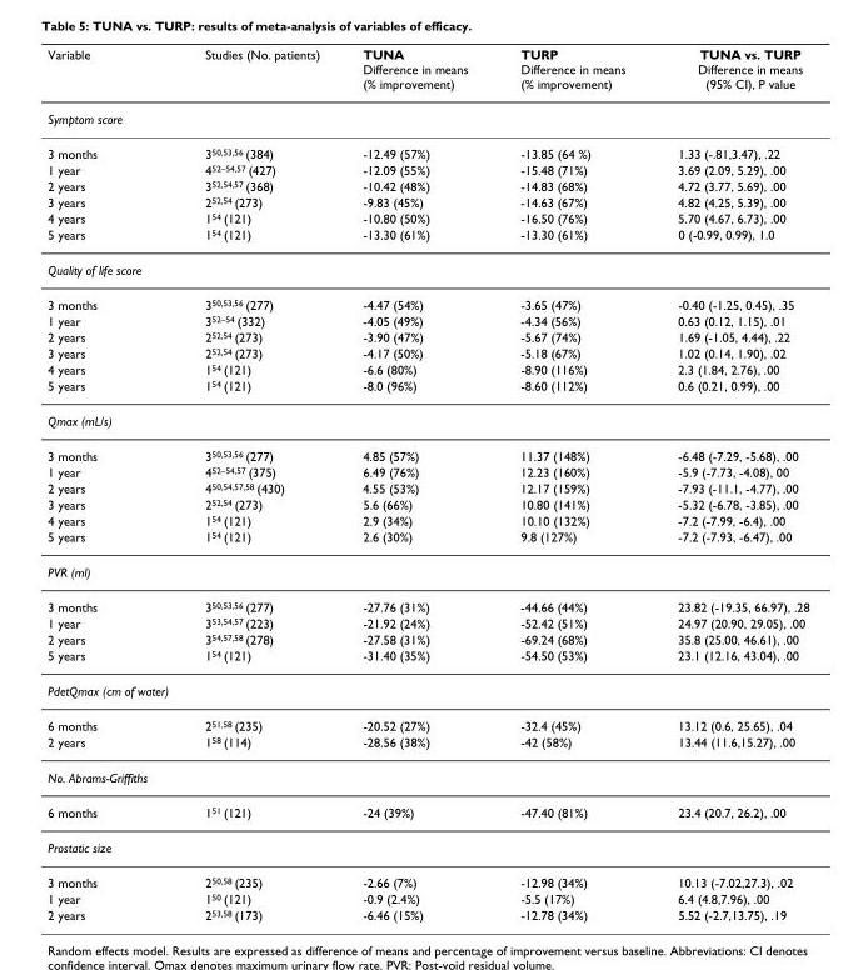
<table><thead><tr><td>Variable</td><td>Studies (No. patients)</td><td>TUNA Difference in means (% improvement)</td><td>TURP Difference in means (% improvement)</td><td>TUNA vs. TURP Difference in means (95% CI), P value</td></tr></thead><tbody><tr><td colspan="5">Symptom score</td></tr><tr><td>3 months</td><td>350,53,56 (384)</td><td>-12.49 (57%)</td><td>-13.85 (64 %)</td><td>1.33 (-.81,3.47), .22</td></tr><tr><td>1 year</td><td>452–54,57 (427)</td><td>-12.09 (55%)</td><td>-15.48 (71%)</td><td>3.69 (2.09, 5.29), .00</td></tr><tr><td>2 years</td><td>352,54,57 (368)</td><td>-10.42 (48%)</td><td>-14.83 (68%)</td><td>4.72 (3.77, 5.69), .00</td></tr><tr><td>3 years</td><td>252,54 (273)</td><td>-9.83 (45%)</td><td>-14.63 (67%)</td><td>4.82 (4.25, 5.39), .00</td></tr><tr><td>4 years</td><td>154 (121)</td><td>-10.80 (50%)</td><td>-16.50 (76%)</td><td>5.70 (4.67, 6.73), .00</td></tr><tr><td>5 years</td><td>154 (121)</td><td>-13.30 (61%)</td><td>-13.30 (61%)</td><td>0 (-0.99, 0.99), 1.0</td></tr><tr><td colspan="5">Quality of life score</td></tr><tr><td>3 months</td><td>350,53,56 (277)</td><td>-4.47 (54%)</td><td>-3.65 (47%)</td><td>-0.40 (-1.25, 0.45), .35</td></tr><tr><td>1 year</td><td>352–54 (332)</td><td>-4.05 (49%)</td><td>-4.34 (56%)</td><td>0.63 (0.12, 1.15), .01</td></tr><tr><td>2 years</td><td>252,54 (273)</td><td>-3.90 (47%)</td><td>-5.67 (74%)</td><td>1.69 (-1.05, 4.44), .22</td></tr><tr><td>3 years</td><td>252,54 (273)</td><td>-4.17 (50%)</td><td>-5.18 (67%)</td><td>1.02 (0.14, 1.90), .02</td></tr><tr><td>4 years</td><td>154 (121)</td><td>-6.6 (80%)</td><td>-8.90 (116%)</td><td>2.3 (1.84, 2.76), .00</td></tr><tr><td>5 years</td><td>154 (121)</td><td>-8.0 (96%)</td><td>-8.60 (112%)</td><td>0.6 (0.21, 0.99), .00</td></tr><tr><td colspan="5">Qmax (mL/s)</td></tr><tr><td>3 months</td><td>350,53,56 (277)</td><td>4.85 (57%)</td><td>11.37 (148%)</td><td>-6.48 (-7.29, -5.68), .00</td></tr><tr><td>1 year</td><td>452–54,57 (375)</td><td>6.49 (76%)</td><td>12.23 (160%)</td><td>-5.9 (-7.73, -4.08), 00</td></tr><tr><td>2 years</td><td>450,54,57,58 (430)</td><td>4.55 (53%)</td><td>12.17 (159%)</td><td>-7.93 (-11.1, -4.77), .00</td></tr><tr><td>3 years</td><td>252,54 (273)</td><td>5.6 (66%)</td><td>10.80 (141%)</td><td>-5.32 (-6.78, -3.85), .00</td></tr><tr><td>4 years</td><td>154 (121)</td><td>2.9 (34%)</td><td>10.10 (132%)</td><td>-7.2 (-7.99, -6.4), .00</td></tr><tr><td>5 years</td><td>154 (121)</td><td>2.6 (30%)</td><td>9.8 (127%)</td><td>-7.2 (-7.93, -6.47), .00</td></tr><tr><td colspan="5">PVR (ml)</td></tr><tr><td>3 months</td><td>350,53,56 (277)</td><td>-27.76 (31%)</td><td>-44.66 (44%)</td><td>23.82 (-19.35, 66.97), .28</td></tr><tr><td>1 year</td><td>353,54,57 (223)</td><td>-21.92 (24%)</td><td>-52.42 (51%)</td><td>24.97 (20.90, 29.05), .00</td></tr><tr><td>2 years</td><td>354,57,58 (278)</td><td>-27.58 (31%)</td><td>-69.24 (68%)</td><td>35.8 (25.00, 46.61), .00</td></tr><tr><td>5 years</td><td>154 (121)</td><td>-31.40 (35%)</td><td>-54.50 (53%)</td><td>23.1 (12.16, 43.04), .00</td></tr><tr><td colspan="5">PdetQmax (cm of water)</td></tr><tr><td>6 months</td><td>251,58 (235)</td><td>-20.52 (27%)</td><td>-32.4 (45%)</td><td>13.12 (0.6, 25.65), .04</td></tr><tr><td>2 years</td><td>158 (114)</td><td>-28.56 (38%)</td><td>-42 (58%)</td><td>13.44 (11.6,15.27), .00</td></tr><tr><td colspan="5">No. Abrams-Griffiths</td></tr><tr><td>6 months</td><td>151 (121)</td><td>-24 (39%)</td><td>-47.40 (81%)</td><td>23.4 (20.7, 26.2), .00</td></tr><tr><td colspan="5">Prostatic size</td></tr><tr><td>3 months</td><td>250,58 (235)</td><td>-2.66 (7%)</td><td>-12.98 (34%)</td><td>10.13 (-7.02,27.3), .02</td></tr><tr><td>1 year</td><td>150 (121)</td><td>-0.9 (2.4%)</td><td>-5.5 (17%)</td><td>6.4 (4.8,7.96), .00</td></tr><tr><td>2 years</td><td>253,58 (173)</td><td>-6.46 (15%)</td><td>-12.78 (34%)</td><td>5.52 (-2.7,13.75), .19</td></tr></tbody></table>